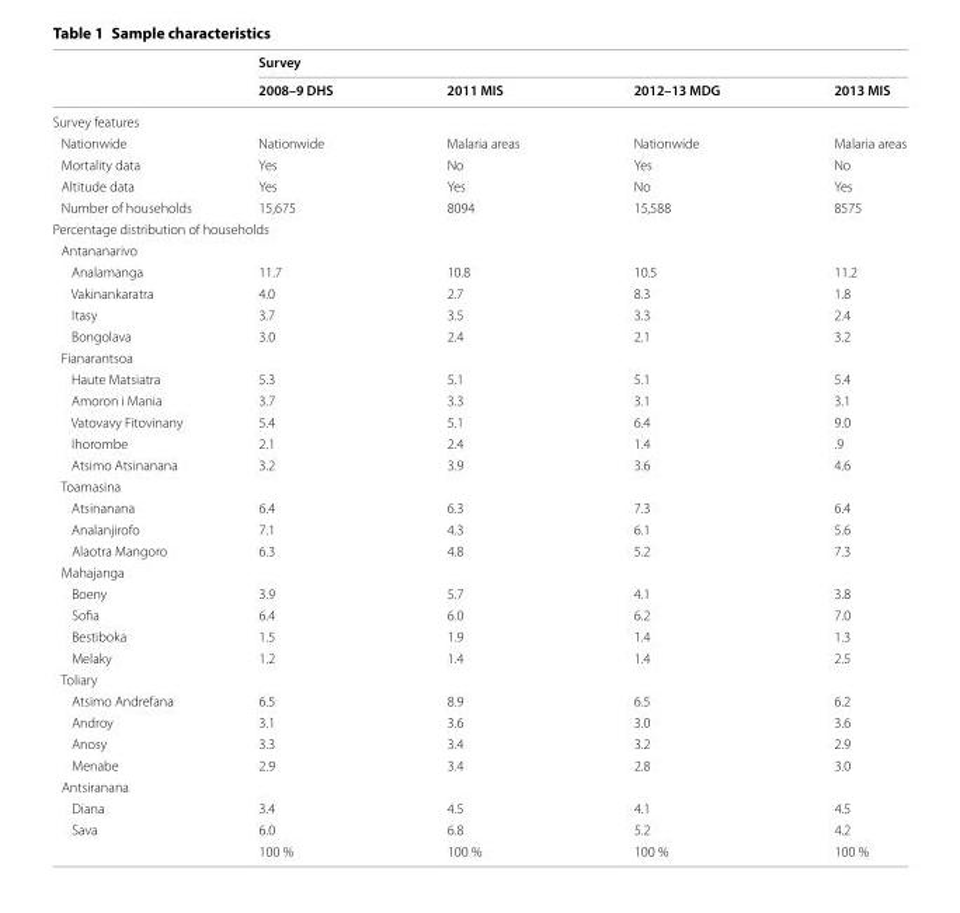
<table><thead><tr><td rowspan="2"></td><td colspan="4">Survey</td></tr><tr><td>2008–9 DHS</td><td>2011 MIS</td><td>2012–13 MDG</td><td>2013 MIS</td></tr></thead><tbody><tr><td colspan="5">Survey features</td></tr><tr><td>Nationwide</td><td>Nationwide</td><td>Malaria areas</td><td>Nationwide</td><td>Malaria areas</td></tr><tr><td>Mortality data</td><td>Yes</td><td>No</td><td>Yes</td><td>No</td></tr><tr><td>Altitude data</td><td>Yes</td><td>Yes</td><td>No</td><td>Yes</td></tr><tr><td>Number of households</td><td>15,675</td><td>8094</td><td>15,588</td><td>8575</td></tr><tr><td colspan="5">Percentage distribution of households</td></tr><tr><td colspan="5">Antananarivo</td></tr><tr><td>Analamanga</td><td>11.7</td><td>10.8</td><td>10.5</td><td>11.2</td></tr><tr><td>Vakinankaratra</td><td>4.0</td><td>2.7</td><td>8.3</td><td>1.8</td></tr><tr><td>Itasy</td><td>3.7</td><td>3.5</td><td>3.3</td><td>2.4</td></tr><tr><td>Bongolava</td><td>3.0</td><td>2.4</td><td>2.1</td><td>3.2</td></tr><tr><td colspan="5">Fianarantsoa</td></tr><tr><td>Haute Matsiatra</td><td>5.3</td><td>5.1</td><td>5.1</td><td>5.4</td></tr><tr><td>Amoron i Mania</td><td>3.7</td><td>3.3</td><td>3.1</td><td>3.1</td></tr><tr><td>Vatovavy Fitovinany</td><td>5.4</td><td>5.1</td><td>6.4</td><td>9.0</td></tr><tr><td>Ihorombe</td><td>2.1</td><td>2.4</td><td>1.4</td><td>.9</td></tr><tr><td>Atsimo Atsinanana</td><td>3.2</td><td>3.9</td><td>3.6</td><td>4.6</td></tr><tr><td colspan="5">Toamasina</td></tr><tr><td>Atsinanana</td><td>6.4</td><td>6.3</td><td>7.3</td><td>6.4</td></tr><tr><td>Analanjirofo</td><td>7.1</td><td>4.3</td><td>6.1</td><td>5.6</td></tr><tr><td>Alaotra Mangoro</td><td>6.3</td><td>4.8</td><td>5.2</td><td>7.3</td></tr><tr><td colspan="5">Mahajanga</td></tr><tr><td>Boeny</td><td>3.9</td><td>5.7</td><td>4.1</td><td>3.8</td></tr><tr><td>Sofia</td><td>6.4</td><td>6.0</td><td>6.2</td><td>7.0</td></tr><tr><td>Bestiboka</td><td>1.5</td><td>1.9</td><td>1.4</td><td>1.3</td></tr><tr><td>Melaky</td><td>1.2</td><td>1.4</td><td>1.4</td><td>2.5</td></tr><tr><td colspan="5">Toliary</td></tr><tr><td>Atsimo Andrefana</td><td>6.5</td><td>8.9</td><td>6.5</td><td>6.2</td></tr><tr><td>Androy</td><td>3.1</td><td>3.6</td><td>3.0</td><td>3.6</td></tr><tr><td>Anosy</td><td>3.3</td><td>3.4</td><td>3.2</td><td>2.9</td></tr><tr><td>Menabe</td><td>2.9</td><td>3.4</td><td>2.8</td><td>3.0</td></tr><tr><td colspan="5">Antsiranana</td></tr><tr><td>Diana</td><td>3.4</td><td>4.5</td><td>4.1</td><td>4.5</td></tr><tr><td rowspan="2">Sava</td><td>6.0</td><td>6.8</td><td>5.2</td><td>4.2</td></tr><tr><td>100 %</td><td>100 %</td><td>100 %</td><td>100 %</td></tr></tbody></table>